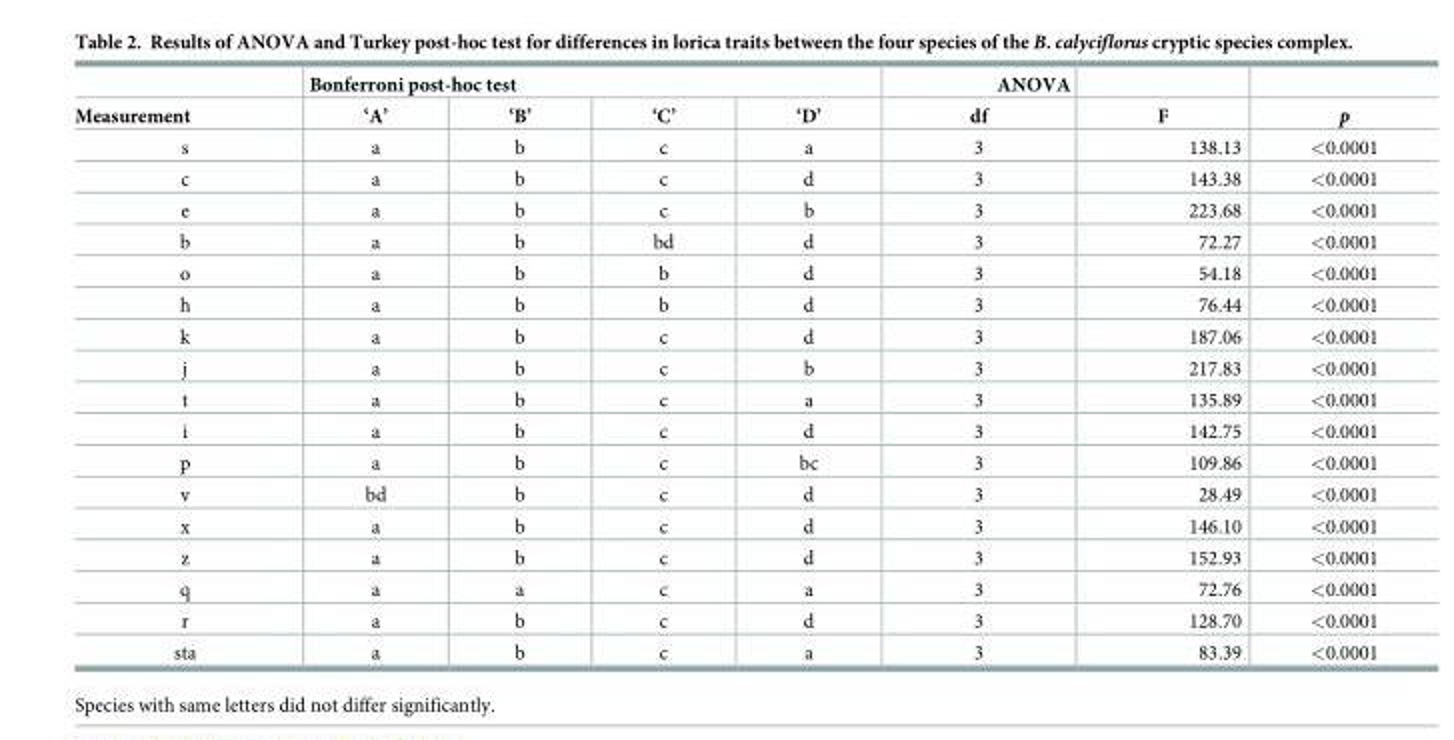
<table><thead><tr><td rowspan="2">Measurement</td><td colspan="4">Bonferroni post-hoc test</td><td rowspan="2">ANOVA df</td><td rowspan="2">F</td><td rowspan="2">p</td></tr><tr><td>‘A’</td><td>‘B’</td><td>‘C’</td><td>‘D’</td></tr></thead><tbody><tr><td>s</td><td>a</td><td>b</td><td>c</td><td>a</td><td>3</td><td>138.13</td><td>&lt;0.0001</td></tr><tr><td>c</td><td>a</td><td>b</td><td>c</td><td>d</td><td>3</td><td>143.38</td><td>&lt;0.0001</td></tr><tr><td>e</td><td>a</td><td>b</td><td>c</td><td>b</td><td>3</td><td>223.68</td><td>&lt;0.0001</td></tr><tr><td>b</td><td>a</td><td>b</td><td>bd</td><td>d</td><td>3</td><td>72.27</td><td>&lt;0.0001</td></tr><tr><td>o</td><td>a</td><td>b</td><td>b</td><td>d</td><td>3</td><td>54.18</td><td>&lt;0.0001</td></tr><tr><td>h</td><td>a</td><td>b</td><td>b</td><td>d</td><td>3</td><td>76.44</td><td>&lt;0.0001</td></tr><tr><td>k</td><td>a</td><td>b</td><td>c</td><td>d</td><td>3</td><td>187.06</td><td>&lt;0.0001</td></tr><tr><td>j</td><td>a</td><td>b</td><td>c</td><td>b</td><td>3</td><td>217.83</td><td>&lt;0.0001</td></tr><tr><td>t</td><td>a</td><td>b</td><td>c</td><td>a</td><td>3</td><td>135.89</td><td>&lt;0.0001</td></tr><tr><td>i</td><td>a</td><td>b</td><td>c</td><td>d</td><td>3</td><td>142.75</td><td>&lt;0.0001</td></tr><tr><td>p</td><td>a</td><td>b</td><td>c</td><td>bc</td><td>3</td><td>109.86</td><td>&lt;0.0001</td></tr><tr><td>v</td><td>bd</td><td>b</td><td>c</td><td>d</td><td>3</td><td>28.49</td><td>&lt;0.0001</td></tr><tr><td>x</td><td>a</td><td>b</td><td>c</td><td>d</td><td>3</td><td>146.10</td><td>&lt;0.0001</td></tr><tr><td>z</td><td>a</td><td>b</td><td>c</td><td>d</td><td>3</td><td>152.93</td><td>&lt;0.0001</td></tr><tr><td>q</td><td>a</td><td>a</td><td>c</td><td>a</td><td>3</td><td>72.76</td><td>&lt;0.0001</td></tr><tr><td>r</td><td>a</td><td>b</td><td>c</td><td>d</td><td>3</td><td>128.70</td><td>&lt;0.0001</td></tr><tr><td>sta</td><td>a</td><td>b</td><td>c</td><td>a</td><td>3</td><td>83.39</td><td>&lt;0.0001</td></tr></tbody></table>